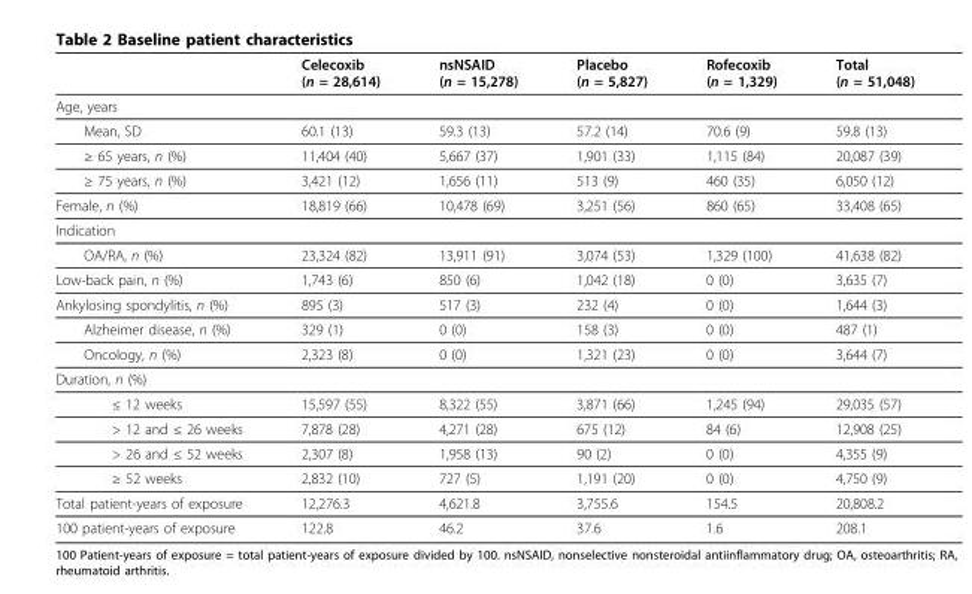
<table><thead><tr><td></td><td>Celecoxib (n = 28,614)</td><td>nsNSAID (n = 15,278)</td><td>Placebo (n = 5,827)</td><td>Rofecoxib (n = 1,329)</td><td>Total (n = 51,048)</td></tr></thead><tbody><tr><td colspan="6">Age, years</td></tr><tr><td>Mean, SD</td><td>60.1 (13)</td><td>59.3 (13)</td><td>57.2 (14)</td><td>70.6 (9)</td><td>59.8 (13)</td></tr><tr><td>≥ 65 years, n (%)</td><td>11,404 (40)</td><td>5,667 (37)</td><td>1,901 (33)</td><td>1,115 (84)</td><td>20,087 (39)</td></tr><tr><td>≥ 75 years, n (%)</td><td>3,421 (12)</td><td>1,656 (11)</td><td>513 (9)</td><td>460 (35)</td><td>6,050 (12)</td></tr><tr><td>Female, n (%)</td><td>18,819 (66)</td><td>10,478 (69)</td><td>3,251 (56)</td><td>860 (65)</td><td>33,408 (65)</td></tr><tr><td colspan="6">Indication</td></tr><tr><td>OA/RA, n (%)</td><td>23,324 (82)</td><td>13,911 (91)</td><td>3,074 (53)</td><td>1,329 (100)</td><td>41,638 (82)</td></tr><tr><td>Low-back pain, n (%)</td><td>1,743 (6)</td><td>850 (6)</td><td>1,042 (18)</td><td>0 (0)</td><td>3,635 (7)</td></tr><tr><td>Ankylosing spondylitis, n (%)</td><td>895 (3)</td><td>517 (3)</td><td>232 (4)</td><td>0 (0)</td><td>1,644 (3)</td></tr><tr><td>Alzheimer disease, n (%)</td><td>329 (1)</td><td>0 (0)</td><td>158 (3)</td><td>0 (0)</td><td>487 (1)</td></tr><tr><td>Oncology, n (%)</td><td>2,323 (8)</td><td>0 (0)</td><td>1,321 (23)</td><td>0 (0)</td><td>3,644 (7)</td></tr><tr><td colspan="6">Duration, n (%)</td></tr><tr><td>≤ 12 weeks</td><td>15,597 (55)</td><td>8,322 (55)</td><td>3,871 (66)</td><td>1,245 (94)</td><td>29,035 (57)</td></tr><tr><td>&gt; 12 and ≤ 26 weeks</td><td>7,878 (28)</td><td>4,271 (28)</td><td>675 (12)</td><td>84 (6)</td><td>12,908 (25)</td></tr><tr><td>&gt; 26 and ≤ 52 weeks</td><td>2,307 (8)</td><td>1,958 (13)</td><td>90 (2)</td><td>0 (0)</td><td>4,355 (9)</td></tr><tr><td>≥ 52 weeks</td><td>2,832 (10)</td><td>727 (5)</td><td>1,191 (20)</td><td>0 (0)</td><td>4,750 (9)</td></tr><tr><td>Total patient-years of exposure</td><td>12,276.3</td><td>4,621.8</td><td>3,755.6</td><td>154.5</td><td>20,808.2</td></tr><tr><td>100 patient-years of exposure</td><td>122.8</td><td>46.2</td><td>37.6</td><td>1.6</td><td>208.1</td></tr></tbody></table>